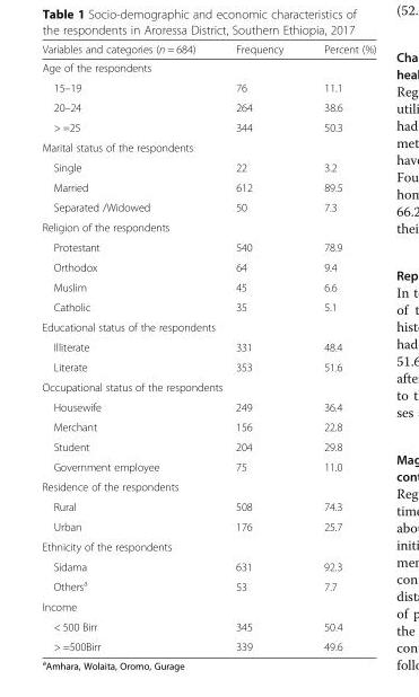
<table><thead><tr><td>Variables and categories (n = 684)</td><td>Frequency</td><td>Percent (%)</td></tr></thead><tbody><tr><td colspan="3">Age of the respondents</td></tr><tr><td>15–19</td><td>76</td><td>11.1</td></tr><tr><td>20–24</td><td>264</td><td>38.6</td></tr><tr><td>&gt; =25</td><td>344</td><td>50.3</td></tr><tr><td colspan="3">Marital status of the respondents</td></tr><tr><td>Single</td><td>22</td><td>3.2</td></tr><tr><td>Married</td><td>612</td><td>89.5</td></tr><tr><td>Separated /Widowed</td><td>50</td><td>7.3</td></tr><tr><td colspan="3">Religion of the respondents</td></tr><tr><td>Protestant</td><td>540</td><td>78.9</td></tr><tr><td>Orthodox</td><td>64</td><td>9.4</td></tr><tr><td>Muslim</td><td>45</td><td>6.6</td></tr><tr><td>Catholic</td><td>35</td><td>5.1</td></tr><tr><td colspan="3">Educational status of the respondents</td></tr><tr><td>Illiterate</td><td>331</td><td>48.4</td></tr><tr><td>Literate</td><td>353</td><td>51.6</td></tr><tr><td colspan="3">Occupational status of the respondents</td></tr><tr><td>Housewife</td><td>249</td><td>36.4</td></tr><tr><td>Merchant</td><td>156</td><td>22.8</td></tr><tr><td>Student</td><td>204</td><td>29.8</td></tr><tr><td>Government employee</td><td>75</td><td>11.0</td></tr><tr><td colspan="3">Residence of the respondents</td></tr><tr><td>Rural</td><td>508</td><td>74.3</td></tr><tr><td>Urban</td><td>176</td><td>25.7</td></tr><tr><td colspan="3">Ethnicity of the respondents</td></tr><tr><td>Sidama</td><td>631</td><td>92.3</td></tr><tr><td>Others<sup>a</sup></td><td>53</td><td>7.7</td></tr><tr><td colspan="3">Income</td></tr><tr><td>&lt; 500 Birr</td><td>345</td><td>50.4</td></tr><tr><td>&gt; =500Birr</td><td>339</td><td>49.6</td></tr></tbody></table>